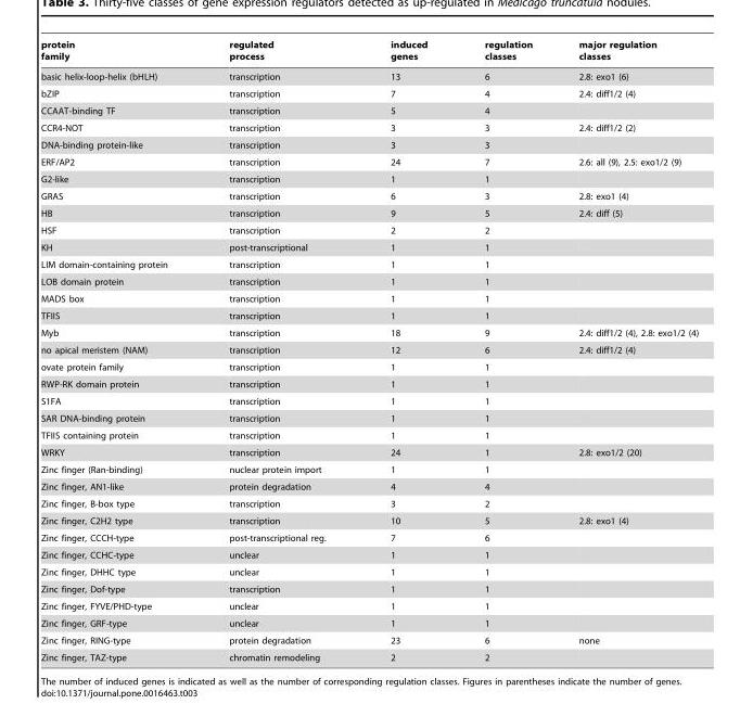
<table><thead><tr><td>protein family</td><td>regulated process</td><td>induced genes</td><td>regulation classes</td><td>major regulation classes</td></tr></thead><tbody><tr><td>basic helix-loop-helix (bHLH)</td><td>transcription</td><td>13</td><td>6</td><td>2.8: exo1 (6)</td></tr><tr><td>bZIP</td><td>transcription</td><td>7</td><td>4</td><td>2.4: diff1/2 (4)</td></tr><tr><td>CCAAT-binding TF</td><td>transcription</td><td>5</td><td>4</td><td></td></tr><tr><td>CCR4-NOT</td><td>transcription</td><td>3</td><td>3</td><td>2.4: diff1/2 (2)</td></tr><tr><td>DNA-binding protein-like</td><td>transcription</td><td>3</td><td>3</td><td></td></tr><tr><td>ERF/AP2</td><td>transcription</td><td>24</td><td>7</td><td>2.6: all (9), 2.5: exo1/2 (9)</td></tr><tr><td>G2-like</td><td>transcription</td><td>1</td><td>1</td><td></td></tr><tr><td>GRAS</td><td>transcription</td><td>6</td><td>3</td><td>2.8: exo1 (4)</td></tr><tr><td>HB</td><td>transcription</td><td>9</td><td>5</td><td>2.4: diff (5)</td></tr><tr><td>HSF</td><td>transcription</td><td>2</td><td>2</td><td></td></tr><tr><td>KH</td><td>post-transcriptional</td><td>1</td><td>1</td><td></td></tr><tr><td>LIM domain-containing protein</td><td>transcription</td><td>1</td><td>1</td><td></td></tr><tr><td>LOB domain protein</td><td>transcription</td><td>1</td><td>1</td><td></td></tr><tr><td>MADS box</td><td>transcription</td><td>1</td><td>1</td><td></td></tr><tr><td>TFIIS</td><td>transcription</td><td>1</td><td>1</td><td></td></tr><tr><td>Myb</td><td>transcription</td><td>18</td><td>9</td><td>2.4: diff1/2 (4), 2.8: exo1/2 (4)</td></tr><tr><td>no apical meristem (NAM)</td><td>transcription</td><td>12</td><td>6</td><td>2.4: diff1/2 (4)</td></tr><tr><td>ovate protein family</td><td>transcription</td><td>1</td><td>1</td><td></td></tr><tr><td>RWP-RK domain protein</td><td>transcription</td><td>1</td><td>1</td><td></td></tr><tr><td>S1FA</td><td>transcription</td><td>1</td><td>1</td><td></td></tr><tr><td>SAR DNA-binding protein</td><td>transcription</td><td>1</td><td>1</td><td></td></tr><tr><td>TFIIS containing protein</td><td>transcription</td><td>1</td><td>1</td><td></td></tr><tr><td>WRKY</td><td>transcription</td><td>24</td><td>1</td><td>2.8: exo1/2 (20)</td></tr><tr><td>Zinc finger (Ran-binding)</td><td>nuclear protein import</td><td>1</td><td>1</td><td></td></tr><tr><td>Zinc finger, AN1-like</td><td>protein degradation</td><td>4</td><td>4</td><td></td></tr><tr><td>Zinc finger, B-box type</td><td>transcription</td><td>3</td><td>2</td><td></td></tr><tr><td>Zinc finger, C2H2 type</td><td>transcription</td><td>10</td><td>5</td><td>2.8: exo1 (4)</td></tr><tr><td>Zinc finger, CCCH-type</td><td>post-transcriptional reg.</td><td>7</td><td>6</td><td></td></tr><tr><td>Zinc finger, CCHC-type</td><td>unclear</td><td>1</td><td>1</td><td></td></tr><tr><td>Zinc finger, DHHC type</td><td>unclear</td><td>1</td><td>1</td><td></td></tr><tr><td>Zinc finger, Dof-type</td><td>transcription</td><td>1</td><td>1</td><td></td></tr><tr><td>Zinc finger, FYVE/PHD-type</td><td>unclear</td><td>1</td><td>1</td><td></td></tr><tr><td>Zinc finger, GRF-type</td><td>unclear</td><td>1</td><td>1</td><td></td></tr><tr><td>Zinc finger, RING-type</td><td>protein degradation</td><td>23</td><td>6</td><td>none</td></tr><tr><td>Zinc finger, TAZ-type</td><td>chromatin remodeling</td><td>2</td><td>2</td><td></td></tr></tbody></table>